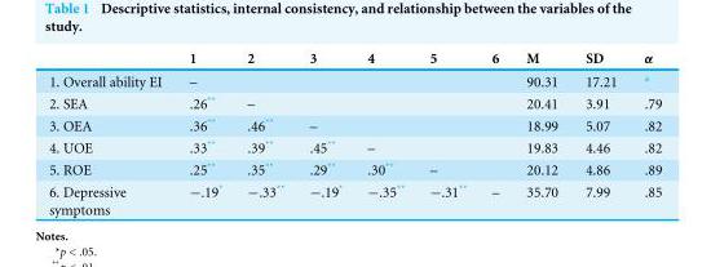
<table><thead><tr><td></td><td>1</td><td>2</td><td>3</td><td>4</td><td>5</td><td>6</td><td>M</td><td>SD</td><td>α</td></tr></thead><tbody><tr><td>1. Overall ability EI</td><td>–</td><td></td><td></td><td></td><td></td><td></td><td>90.31</td><td>17.21</td><td><sup>a</sup></td></tr><tr><td>2. SEA</td><td>.26**</td><td>–</td><td></td><td></td><td></td><td></td><td>20.41</td><td>3.91</td><td>.79</td></tr><tr><td>3. OEA</td><td>.36**</td><td>.46**</td><td>–</td><td></td><td></td><td></td><td>18.99</td><td>5.07</td><td>.82</td></tr><tr><td>4. UOE</td><td>.33**</td><td>.39**</td><td>.45**</td><td>–</td><td></td><td></td><td>19.83</td><td>4.46</td><td>.82</td></tr><tr><td>5. ROE</td><td>.25**</td><td>.35**</td><td>.29**</td><td>.30**</td><td>–</td><td></td><td>20.12</td><td>4.86</td><td>.89</td></tr><tr><td>6. Depressive symptoms</td><td>−.19*</td><td>−.33**</td><td>−.19*</td><td>−.35**</td><td>−.31**</td><td>–</td><td>35.70</td><td>7.99</td><td>.85</td></tr></tbody></table>